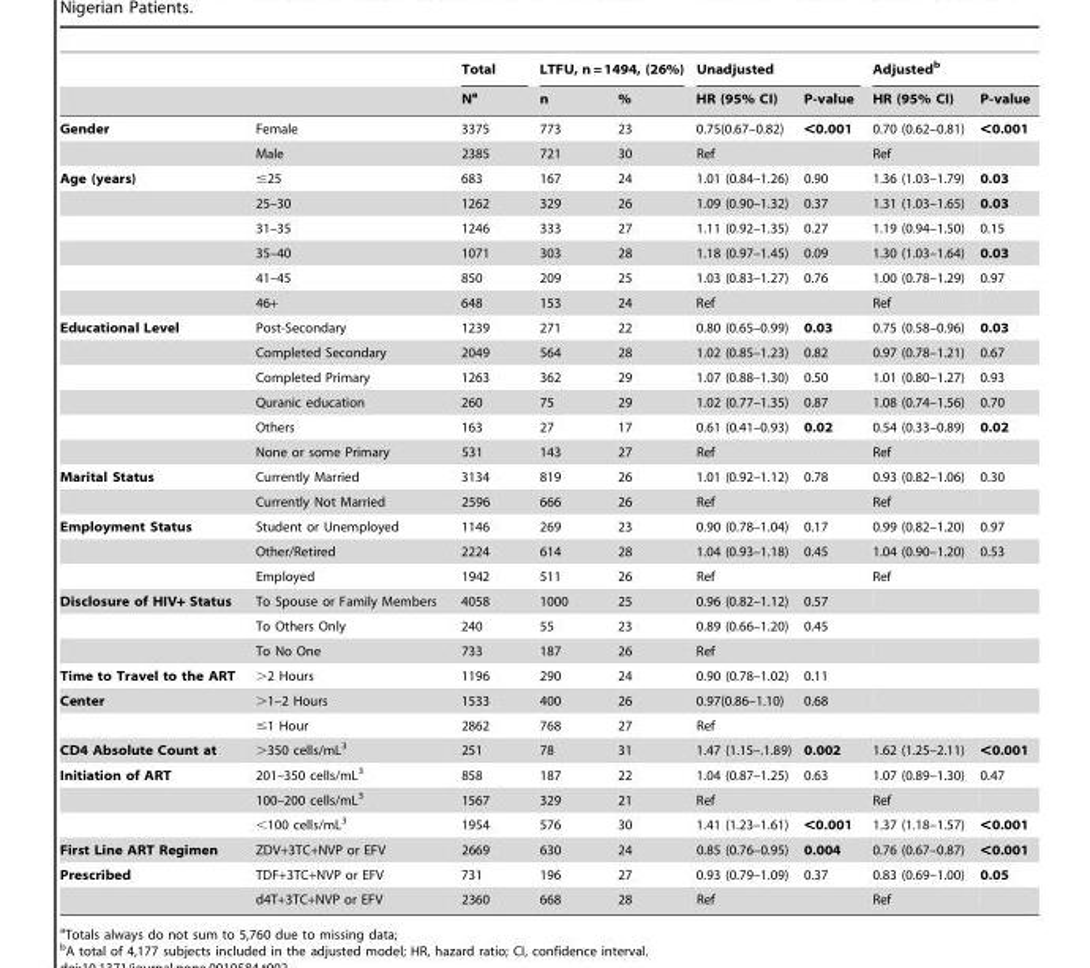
<table><thead><tr><td rowspan="2"></td><td rowspan="2"></td><td rowspan="2">Total N<sup>a</sup></td><td colspan="2">LTFU, n = 1494, (26%)</td><td colspan="2">Unadjusted</td><td colspan="2">Adjusted<sup>b</sup></td></tr><tr><td>n</td><td>%</td><td>HR (95% CI)</td><td>P-value</td><td>HR (95% CI)</td><td>P-value</td></tr></thead><tbody><tr><td rowspan="2">Gender</td><td>Female</td><td>3375</td><td>773</td><td>23</td><td>0.75(0.67–0.82)</td><td>&lt;0.001</td><td>0.70 (0.62–0.81)</td><td>&lt;0.001</td></tr><tr><td>Male</td><td>2385</td><td>721</td><td>30</td><td>Ref</td><td></td><td>Ref</td><td></td></tr><tr><td rowspan="6">Age (years)</td><td>≤25</td><td>683</td><td>167</td><td>24</td><td>1.01 (0.84–1.26)</td><td>0.90</td><td>1.36 (1.03–1.79)</td><td>0.03</td></tr><tr><td>25–30</td><td>1262</td><td>329</td><td>26</td><td>1.09 (0.90–1.32)</td><td>0.37</td><td>1.31 (1.03–1.65)</td><td>0.03</td></tr><tr><td>31–35</td><td>1246</td><td>333</td><td>27</td><td>1.11 (0.92–1.35)</td><td>0.27</td><td>1.19 (0.94–1.50)</td><td>0.15</td></tr><tr><td>35–40</td><td>1071</td><td>303</td><td>28</td><td>1.18 (0.97–1.45)</td><td>0.09</td><td>1.30 (1.03–1.64)</td><td>0.03</td></tr><tr><td>41–45</td><td>850</td><td>209</td><td>25</td><td>1.03 (0.83–1.27)</td><td>0.76</td><td>1.00 (0.78–1.29)</td><td>0.97</td></tr><tr><td>46+</td><td>648</td><td>153</td><td>24</td><td>Ref</td><td></td><td>Ref</td><td></td></tr><tr><td rowspan="6">Educational Level</td><td>Post-Secondary</td><td>1239</td><td>271</td><td>22</td><td>0.80 (0.65–0.99)</td><td>0.03</td><td>0.75 (0.58–0.96)</td><td>0.03</td></tr><tr><td>Completed Secondary</td><td>2049</td><td>564</td><td>28</td><td>1.02 (0.85–1.23)</td><td>0.82</td><td>0.97 (0.78–1.21)</td><td>0.67</td></tr><tr><td>Completed Primary</td><td>1263</td><td>362</td><td>29</td><td>1.07 (0.88–1.30)</td><td>0.50</td><td>1.01 (0.80–1.27)</td><td>0.93</td></tr><tr><td>Quranic education</td><td>260</td><td>75</td><td>29</td><td>1.02 (0.77–1.35)</td><td>0.87</td><td>1.08 (0.74–1.56)</td><td>0.70</td></tr><tr><td>Others</td><td>163</td><td>27</td><td>17</td><td>0.61 (0.41–0.93)</td><td>0.02</td><td>0.54 (0.33–0.89)</td><td>0.02</td></tr><tr><td>None or some Primary</td><td>531</td><td>143</td><td>27</td><td>Ref</td><td></td><td>Ref</td><td></td></tr><tr><td rowspan="2">Marital Status</td><td>Currently Married</td><td>3134</td><td>819</td><td>26</td><td>1.01 (0.92–1.12)</td><td>0.78</td><td>0.93 (0.82–1.06)</td><td>0.30</td></tr><tr><td>Currently Not Married</td><td>2596</td><td>666</td><td>26</td><td>Ref</td><td></td><td>Ref</td><td></td></tr><tr><td rowspan="3">Employment Status</td><td>Student or Unemployed</td><td>1146</td><td>269</td><td>23</td><td>0.90 (0.78–1.04)</td><td>0.17</td><td>0.99 (0.82–1.20)</td><td>0.97</td></tr><tr><td>Other/Retired</td><td>2224</td><td>614</td><td>28</td><td>1.04 (0.93–1.18)</td><td>0.45</td><td>1.04 (0.90–1.20)</td><td>0.53</td></tr><tr><td>Employed</td><td>1942</td><td>511</td><td>26</td><td>Ref</td><td></td><td>Ref</td><td></td></tr><tr><td rowspan="3">Disclosure of HIV+ Status</td><td>To Spouse or Family Members</td><td>4058</td><td>1000</td><td>25</td><td>0.96 (0.82–1.12)</td><td>0.57</td><td></td><td></td></tr><tr><td>To Others Only</td><td>240</td><td>55</td><td>23</td><td>0.89 (0.66–1.20)</td><td>0.45</td><td></td><td></td></tr><tr><td>To No One</td><td>733</td><td>187</td><td>26</td><td>Ref</td><td></td><td></td><td></td></tr><tr><td>Time to Travel to the ART</td><td>&gt;2 Hours</td><td>1196</td><td>290</td><td>24</td><td>0.90 (0.78–1.02)</td><td>0.11</td><td></td><td></td></tr><tr><td rowspan="2">Center</td><td>&gt;1–2 Hours</td><td>1533</td><td>400</td><td>26</td><td>0.97(0.86–1.10)</td><td>0.68</td><td></td><td></td></tr><tr><td>≤1 Hour</td><td>2862</td><td>768</td><td>27</td><td>Ref</td><td></td><td></td><td></td></tr><tr><td>CD4 Absolute Count at</td><td>&gt;350 cells/mL<sup>3</sup></td><td>251</td><td>78</td><td>31</td><td>1.47 (1.15–.1.89)</td><td>0.002</td><td>1.62 (1.25–2.11)</td><td>&lt;0.001</td></tr><tr><td rowspan="3">Initiation of ART</td><td>201–350 cells/mL<sup>3</sup></td><td>858</td><td>187</td><td>22</td><td>1.04 (0.87–1.25)</td><td>0.63</td><td>1.07 (0.89–1.30)</td><td>0.47</td></tr><tr><td>100–200 cells/mL<sup>3</sup></td><td>1567</td><td>329</td><td>21</td><td>Ref</td><td></td><td>Ref</td><td></td></tr><tr><td>&lt;100 cells/mL<sup>3</sup></td><td>1954</td><td>576</td><td>30</td><td>1.41 (1.23–1.61)</td><td>&lt;0.001</td><td>1.37 (1.18–1.57)</td><td>&lt;0.001</td></tr><tr><td>First Line ART Regimen</td><td>ZDV+3TC+NVP or EFV</td><td>2669</td><td>630</td><td>24</td><td>0.85 (0.76–0.95)</td><td>0.004</td><td>0.76 (0.67–0.87)</td><td>&lt;0.001</td></tr><tr><td rowspan="2">Prescribed</td><td>TDF+3TC+NVP or EFV</td><td>731</td><td>196</td><td>27</td><td>0.93 (0.79–1.09)</td><td>0.37</td><td>0.83 (0.69–1.00)</td><td>0.05</td></tr><tr><td>d4T+3TC+NVP or EFV</td><td>2360</td><td>668</td><td>28</td><td>Ref</td><td></td><td>Ref</td><td></td></tr></tbody></table>